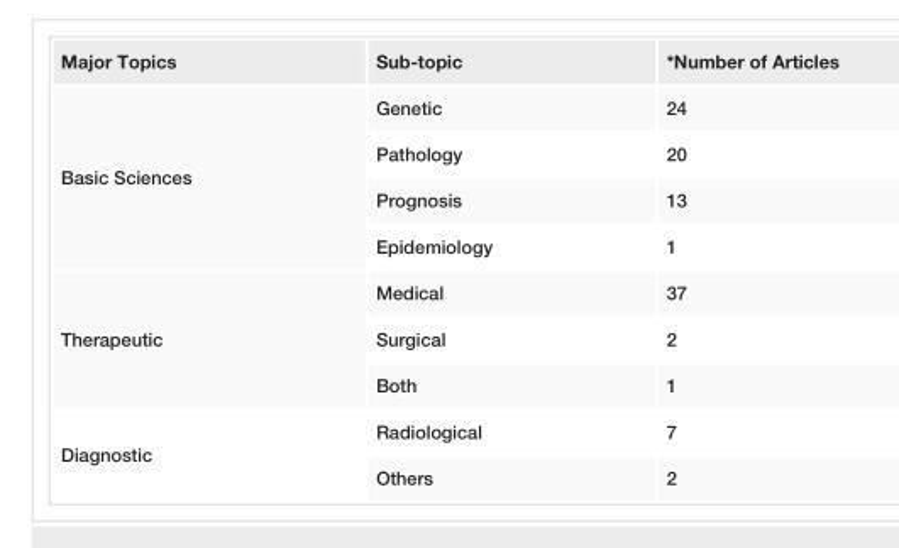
<table><tbody><tr><td>Major Topics</td><td>Sub-topic</td><td>*Number of Articles</td></tr><tr><td rowspan="4">Basic Sciences</td><td>Genetic</td><td>24</td></tr><tr><td>Pathology</td><td>20</td></tr><tr><td>Prognosis</td><td>13</td></tr><tr><td>Epidemiology</td><td>1</td></tr><tr><td rowspan="3">Therapeutic</td><td>Medical</td><td>37</td></tr><tr><td>Surgical</td><td>2</td></tr><tr><td>Both</td><td>1</td></tr><tr><td rowspan="2">Diagnostic</td><td>Radiological</td><td>7</td></tr><tr><td>Others</td><td>2</td></tr></tbody></table>